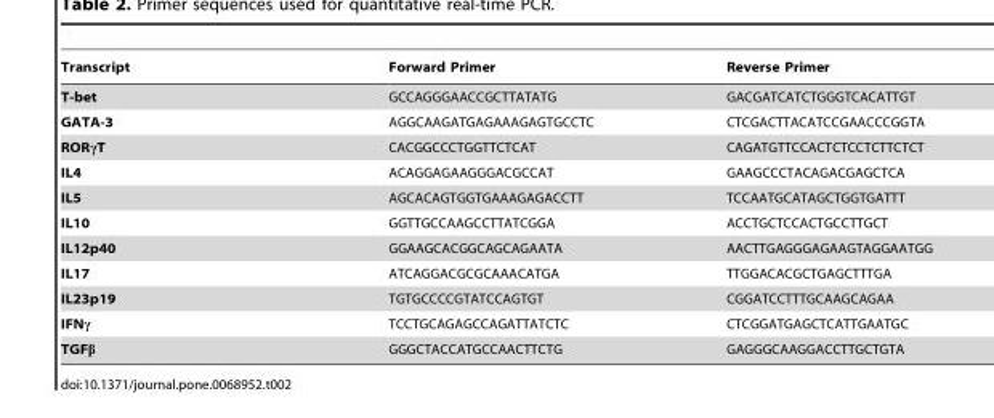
<table><thead><tr><td>Transcript</td><td>Forward Primer</td><td>Reverse Primer</td></tr></thead><tbody><tr><td>T-bet</td><td>GCCAGGGAACCGCTTATATG</td><td>GACGATCATCTGGGTCACATTGT</td></tr><tr><td>GATA-3</td><td>AGGCAAGATGAGAAAGAGTGCCTC</td><td>CTCGACTTACATCCGAACCCGGTA</td></tr><tr><td>RORγT</td><td>CACGGCCCTGGTTCTCAT</td><td>CAGATGTTCCACTCTCCTCTTCTCT</td></tr><tr><td>IL4</td><td>ACAGGAGAAGGGACGCCAT</td><td>GAAGCCCTACAGACGAGCTCA</td></tr><tr><td>IL5</td><td>AGCACAGTGGTGAAAGAGACCTT</td><td>TCCAATGCATAGCTGGTGATTT</td></tr><tr><td>IL10</td><td>GGTTGCCAAGCCTTATCGGA</td><td>ACCTGCTCCACTGCCTTGCT</td></tr><tr><td>IL12p40</td><td>GGAAGCACGGCAGCAGAATA</td><td>AACTTGAGGGAGAAGTAGGAATGG</td></tr><tr><td>IL17</td><td>ATCAGGACGCGCAAACATGA</td><td>TTGGACACGCTGAGCTTTGA</td></tr><tr><td>IL23p19</td><td>TGTGCCCCGTATCCAGTGT</td><td>CGGATCCTTTGCAAGCAGAA</td></tr><tr><td>IFNγ</td><td>TCCTGCAGAGCCAGATTATCTC</td><td>CTCGGATGAGCTCATTGAATGC</td></tr><tr><td>TGFβ</td><td>GGGCTACCATGCCAACTTCTG</td><td>GAGGGCAAGGACCTTGCTGTA</td></tr></tbody></table>